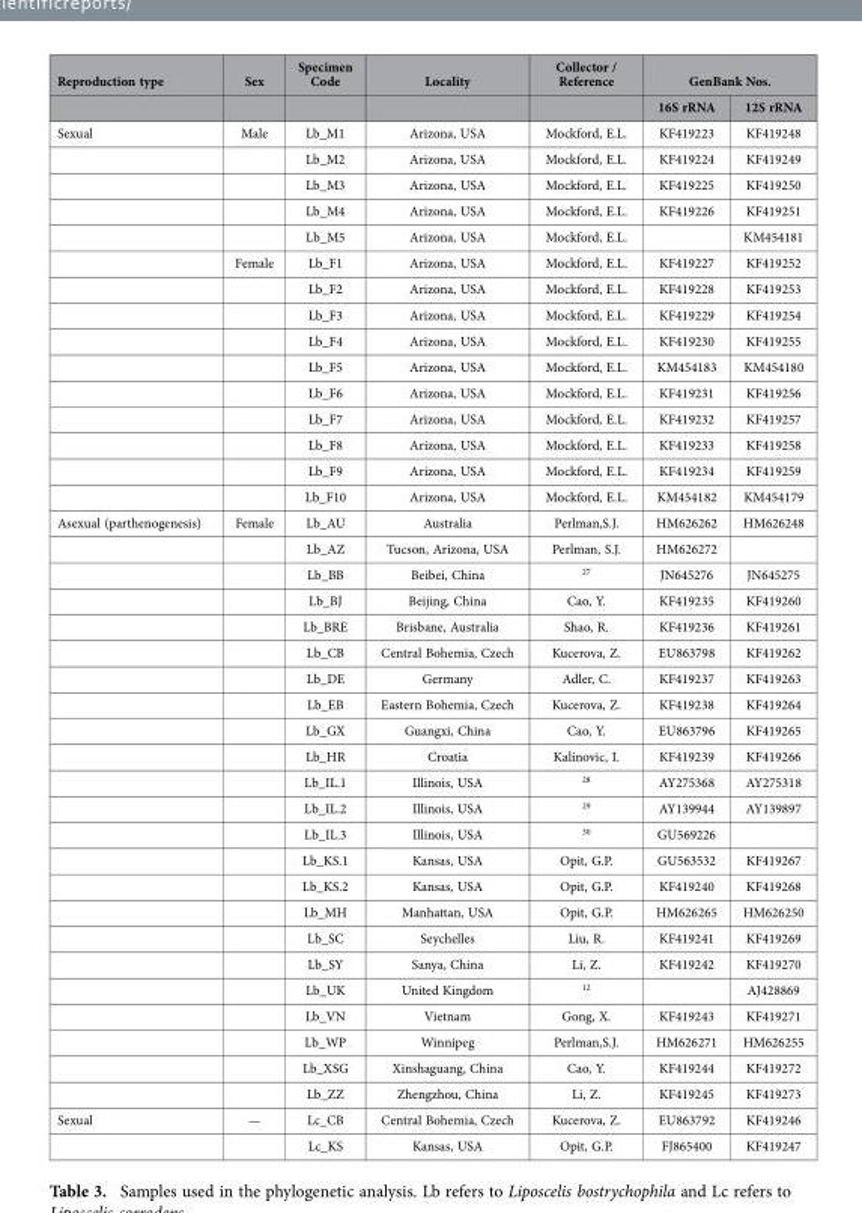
<table><thead><tr><td rowspan="2">Reproduction type</td><td rowspan="2">Sex</td><td rowspan="2">Specimen Code</td><td rowspan="2">Locality</td><td rowspan="2">Collector / Reference</td><td colspan="2">GenBank Nos.</td></tr><tr><td>16S rRNA</td><td>12S rRNA</td></tr></thead><tbody><tr><td rowspan="15">Sexual</td><td>Male</td><td>Lb_M1</td><td>Arizona, USA</td><td>Mockford, E.L.</td><td>KF419223</td><td>KF419248</td></tr><tr><td></td><td>Lb_M2</td><td>Arizona, USA</td><td>Mockford, E.L.</td><td>KF419224</td><td>KF419249</td></tr><tr><td></td><td>Lb_M3</td><td>Arizona, USA</td><td>Mockford, E.L.</td><td>KF419225</td><td>KF419250</td></tr><tr><td></td><td>Lb_M4</td><td>Arizona, USA</td><td>Mockford, E.L.</td><td>KF419226</td><td>KF419251</td></tr><tr><td></td><td>Lb_M5</td><td>Arizona, USA</td><td>Mockford, E.L.</td><td></td><td>KM454181</td></tr><tr><td>Female</td><td>Lb_F1</td><td>Arizona, USA</td><td>Mockford, E.L.</td><td>KF419227</td><td>KF419252</td></tr><tr><td></td><td>Lb_F2</td><td>Arizona, USA</td><td>Mockford, E.L.</td><td>KF419228</td><td>KF419253</td></tr><tr><td></td><td>Lb_F3</td><td>Arizona, USA</td><td>Mockford, E.L.</td><td>KF419229</td><td>KF419254</td></tr><tr><td></td><td>Lb_F4</td><td>Arizona, USA</td><td>Mockford, E.L.</td><td>KF419230</td><td>KF419255</td></tr><tr><td></td><td>Lb_F5</td><td>Arizona, USA</td><td>Mockford, E.L.</td><td>KM454183</td><td>KM454180</td></tr><tr><td></td><td>Lb_F6</td><td>Arizona, USA</td><td>Mockford, E.L.</td><td>KF419231</td><td>KF419256</td></tr><tr><td></td><td>Lb_F7</td><td>Arizona, USA</td><td>Mockford, E.L.</td><td>KF419232</td><td>KF419257</td></tr><tr><td></td><td>Lb_F8</td><td>Arizona, USA</td><td>Mockford, E.L.</td><td>KF419233</td><td>KF419258</td></tr><tr><td></td><td>Lb_F9</td><td>Arizona, USA</td><td>Mockford, E.L.</td><td>KF419234</td><td>KF419259</td></tr><tr><td></td><td>Lb_F10</td><td>Arizona, USA</td><td>Mockford, E.L.</td><td>KM454182</td><td>KM454179</td></tr><tr><td rowspan="23">Asexual (parthenogenesis)</td><td>Female</td><td>Lb_AU</td><td>Australia</td><td>Perlman,S.J.</td><td>HM626262</td><td>HM626248</td></tr><tr><td></td><td>Lb_AZ</td><td>Tucson, Arizona, USA</td><td>Perlman, S.J.</td><td>HM626272</td><td></td></tr><tr><td></td><td>Lb_BB</td><td>Beibei, China</td><td>27</td><td>JN645276</td><td>JN645275</td></tr><tr><td></td><td>Lb_BJ</td><td>Beijing, China</td><td>Cao, Y.</td><td>KF419235</td><td>KF419260</td></tr><tr><td></td><td>Lb_BRE</td><td>Brisbane, Australia</td><td>Shao, R.</td><td>KF419236</td><td>KF419261</td></tr><tr><td></td><td>Lb_CB</td><td>Central Bohemia, Czech</td><td>Kucerova, Z.</td><td>EU863798</td><td>KF419262</td></tr><tr><td></td><td>Lb_DE</td><td>Germany</td><td>Adler, C.</td><td>KF419237</td><td>KF419263</td></tr><tr><td></td><td>Lb_EB</td><td>Eastern Bohemia, Czech</td><td>Kucerova, Z.</td><td>KF419238</td><td>KF419264</td></tr><tr><td></td><td>Lb_GX</td><td>Guangxi, China</td><td>Cao, Y.</td><td>EU863796</td><td>KF419265</td></tr><tr><td></td><td>Lb_HR</td><td>Croatia</td><td>Kalinovic, I.</td><td>KF419239</td><td>KF419266</td></tr><tr><td></td><td>Lb_IL.1</td><td>Illinois, USA</td><td>28</td><td>AY275368</td><td>AY275318</td></tr><tr><td></td><td>Lb_IL.2</td><td>Illinois, USA</td><td>29</td><td>AY139944</td><td>AY139897</td></tr><tr><td></td><td>Lb_IL.3</td><td>Illinois, USA</td><td>30</td><td>GU569226</td><td></td></tr><tr><td></td><td>Lb_KS.1</td><td>Kansas, USA</td><td>Opit, G.P.</td><td>GU563532</td><td>KF419267</td></tr><tr><td></td><td>Lb_KS.2</td><td>Kansas, USA</td><td>Opit, G.P.</td><td>KF419240</td><td>KF419268</td></tr><tr><td></td><td>Lb_MH</td><td>Manhattan, USA</td><td>Opit, G.P.</td><td>HM626265</td><td>HM626250</td></tr><tr><td></td><td>Lb_SC</td><td>Seychelles</td><td>Liu, R.</td><td>KF419241</td><td>KF419269</td></tr><tr><td></td><td>Lb_SY</td><td>Sanya, China</td><td>Li, Z.</td><td>KF419242</td><td>KF419270</td></tr><tr><td></td><td>Lb_UK</td><td>United Kingdom</td><td>12</td><td></td><td>AJ428869</td></tr><tr><td></td><td>Lb_VN</td><td>Vietnam</td><td>Gong, X.</td><td>KF419243</td><td>KF419271</td></tr><tr><td></td><td>Lb_WP</td><td>Winnipeg</td><td>Perlman,S.J.</td><td>HM626271</td><td>HM626255</td></tr><tr><td></td><td>Lb_XSG</td><td>Xinshaguang, China</td><td>Cao, Y.</td><td>KF419244</td><td>KF419272</td></tr><tr><td></td><td>Lb_ZZ</td><td>Zhengzhou, China</td><td>Li, Z.</td><td>KF419245</td><td>KF419273</td></tr><tr><td rowspan="2">Sexual</td><td>—</td><td>Lc_CB</td><td>Central Bohemia, Czech</td><td>Kucerova, Z.</td><td>EU863792</td><td>KF419246</td></tr><tr><td></td><td>Lc_KS</td><td>Kansas, USA</td><td>Opit, G.P.</td><td>FJ865400</td><td>KF419247</td></tr></tbody></table>